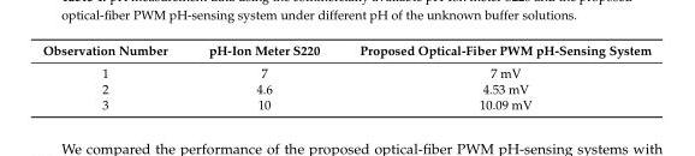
<table><thead><tr><td>Observation Number</td><td>pH-Ion Meter S220</td><td>Proposed Optical-Fiber PWM pH-Sensing System</td></tr></thead><tbody><tr><td>1</td><td>7</td><td>7 mV</td></tr><tr><td>2</td><td>4.6</td><td>4.53 mV</td></tr><tr><td>3</td><td>10</td><td>10.09 mV</td></tr></tbody></table>